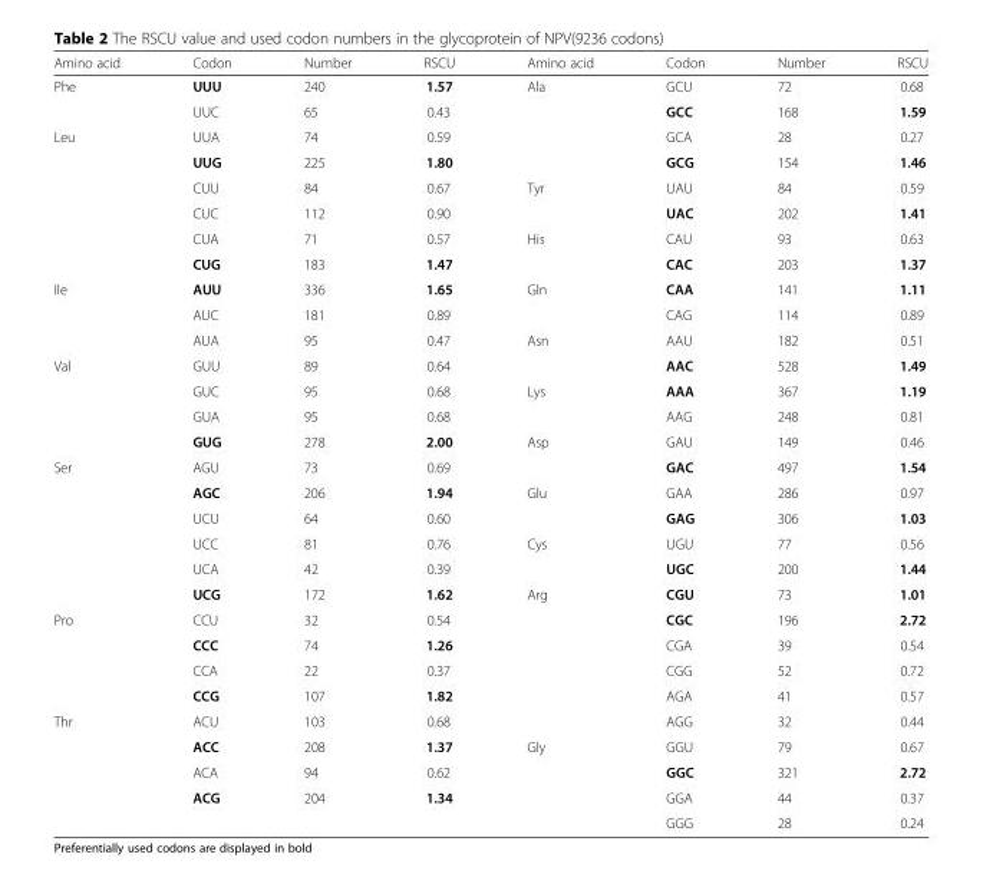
<table><thead><tr><td>Amino acid</td><td>Codon</td><td>Number</td><td>RSCU</td><td>Amino acid</td><td>Codon</td><td>Number</td><td>RSCU</td></tr></thead><tbody><tr><td rowspan="2">Phe</td><td>UUU</td><td>240</td><td>1.57</td><td>Ala</td><td>GCU</td><td>72</td><td>0.68</td></tr><tr><td>UUC</td><td>65</td><td>0.43</td><td></td><td>GCC</td><td>168</td><td>1.59</td></tr><tr><td rowspan="6">Leu</td><td>UUA</td><td>74</td><td>0.59</td><td></td><td>GCA</td><td>28</td><td>0.27</td></tr><tr><td>UUG</td><td>225</td><td>1.80</td><td></td><td>GCG</td><td>154</td><td>1.46</td></tr><tr><td>CUU</td><td>84</td><td>0.67</td><td>Tyr</td><td>UAU</td><td>84</td><td>0.59</td></tr><tr><td>CUC</td><td>112</td><td>0.90</td><td></td><td>UAC</td><td>202</td><td>1.41</td></tr><tr><td>CUA</td><td>71</td><td>0.57</td><td>His</td><td>CAU</td><td>93</td><td>0.63</td></tr><tr><td>CUG</td><td>183</td><td>1.47</td><td></td><td>CAC</td><td>203</td><td>1.37</td></tr><tr><td rowspan="3">Ile</td><td>AUU</td><td>336</td><td>1.65</td><td>Gln</td><td>CAA</td><td>141</td><td>1.11</td></tr><tr><td>AUC</td><td>181</td><td>0.89</td><td></td><td>CAG</td><td>114</td><td>0.89</td></tr><tr><td>AUA</td><td>95</td><td>0.47</td><td>Asn</td><td>AAU</td><td>182</td><td>0.51</td></tr><tr><td rowspan="4">Val</td><td>GUU</td><td>89</td><td>0.64</td><td></td><td>AAC</td><td>528</td><td>1.49</td></tr><tr><td>GUC</td><td>95</td><td>0.68</td><td>Lys</td><td>AAA</td><td>367</td><td>1.19</td></tr><tr><td>GUA</td><td>95</td><td>0.68</td><td></td><td>AAG</td><td>248</td><td>0.81</td></tr><tr><td>GUG</td><td>278</td><td>2.00</td><td>Asp</td><td>GAU</td><td>149</td><td>0.46</td></tr><tr><td rowspan="6">Ser</td><td>AGU</td><td>73</td><td>0.69</td><td></td><td>GAC</td><td>497</td><td>1.54</td></tr><tr><td>AGC</td><td>206</td><td>1.94</td><td>Glu</td><td>GAA</td><td>286</td><td>0.97</td></tr><tr><td>UCU</td><td>64</td><td>0.60</td><td></td><td>GAG</td><td>306</td><td>1.03</td></tr><tr><td>UCC</td><td>81</td><td>0.76</td><td>Cys</td><td>UGU</td><td>77</td><td>0.56</td></tr><tr><td>UCA</td><td>42</td><td>0.39</td><td></td><td>UGC</td><td>200</td><td>1.44</td></tr><tr><td>UCG</td><td>172</td><td>1.62</td><td>Arg</td><td>CGU</td><td>73</td><td>1.01</td></tr><tr><td rowspan="4">Pro</td><td>CCU</td><td>32</td><td>0.54</td><td></td><td>CGC</td><td>196</td><td>2.72</td></tr><tr><td>CCC</td><td>74</td><td>1.26</td><td></td><td>CGA</td><td>39</td><td>0.54</td></tr><tr><td>CCA</td><td>22</td><td>0.37</td><td></td><td>CGG</td><td>52</td><td>0.72</td></tr><tr><td>CCG</td><td>107</td><td>1.82</td><td></td><td>AGA</td><td>41</td><td>0.57</td></tr><tr><td rowspan="5">Thr</td><td>ACU</td><td>103</td><td>0.68</td><td></td><td>AGG</td><td>32</td><td>0.44</td></tr><tr><td>ACC</td><td>208</td><td>1.37</td><td>Gly</td><td>GGU</td><td>79</td><td>0.67</td></tr><tr><td>ACA</td><td>94</td><td>0.62</td><td></td><td>GGC</td><td>321</td><td>2.72</td></tr><tr><td>ACG</td><td>204</td><td>1.34</td><td></td><td>GGA</td><td>44</td><td>0.37</td></tr><tr><td></td><td></td><td></td><td></td><td>GGG</td><td>28</td><td>0.24</td></tr></tbody></table>